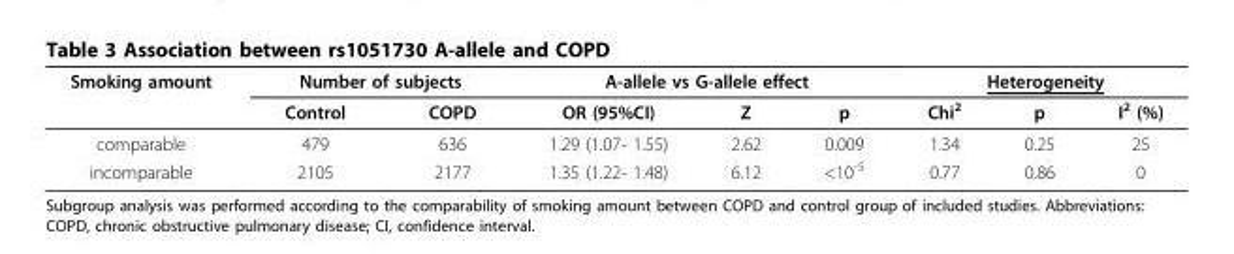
<table><thead><tr><td rowspan="2">Smoking amount</td><td colspan="2">Number of subjects</td><td colspan="3">A-allele vs G-allele effect</td><td colspan="3">Heterogeneity</td></tr><tr><td>Control</td><td>COPD</td><td>OR (95%CI)</td><td>Z</td><td>p</td><td>Chi<sup>2</sup></td><td>p</td><td>I<sup>2</sup> (%)</td></tr></thead><tbody><tr><td>comparable</td><td>479</td><td>636</td><td>1.29 (1.07- 1.55)</td><td>2.62</td><td>0.009</td><td>1.34</td><td>0.25</td><td>25</td></tr><tr><td>incomparable</td><td>2105</td><td>2177</td><td>1.35 (1.22- 1.48)</td><td>6.12</td><td>&lt;10<sup>-5</sup></td><td>0.77</td><td>0.86</td><td>0</td></tr></tbody></table>